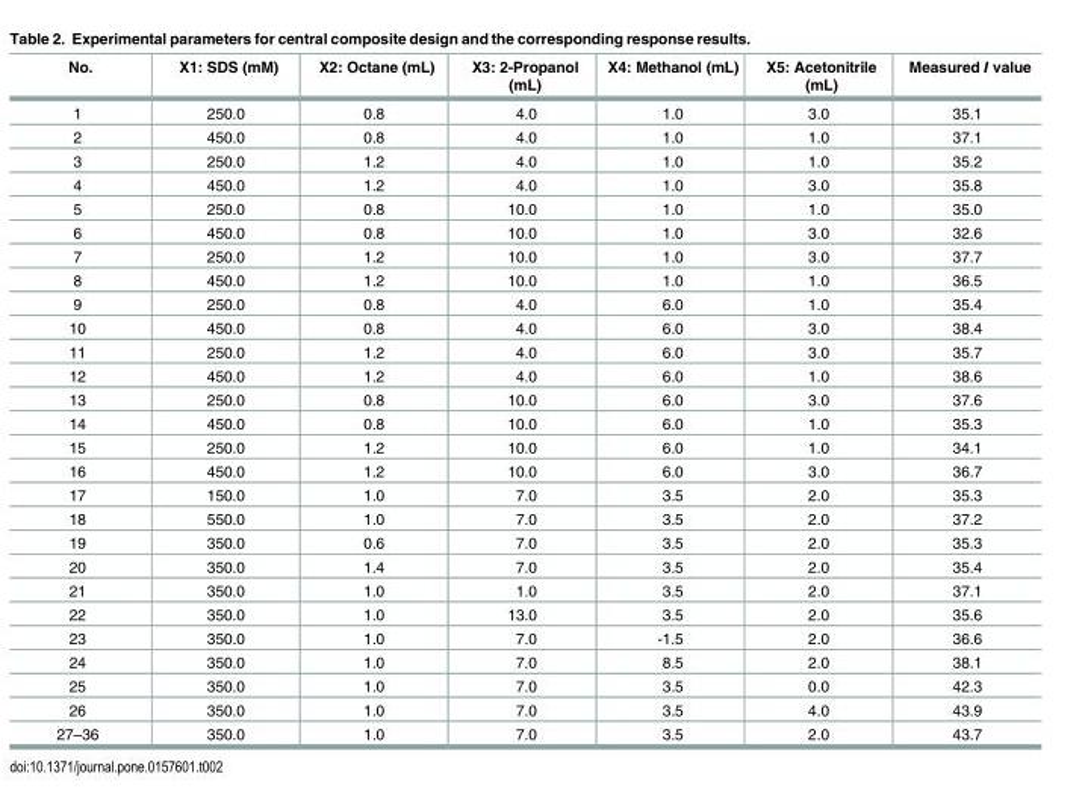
<table><thead><tr><td>No.</td><td>X1: SDS (mM)</td><td>X2: Octane (mL)</td><td>X3: 2-Propanol (mL)</td><td>X4: Methanol (mL)</td><td>X5: Acetonitrile (mL)</td><td>Measured I value</td></tr></thead><tbody><tr><td>1</td><td>250.0</td><td>0.8</td><td>4.0</td><td>1.0</td><td>3.0</td><td>35.1</td></tr><tr><td>2</td><td>450.0</td><td>0.8</td><td>4.0</td><td>1.0</td><td>1.0</td><td>37.1</td></tr><tr><td>3</td><td>250.0</td><td>1.2</td><td>4.0</td><td>1.0</td><td>1.0</td><td>35.2</td></tr><tr><td>4</td><td>450.0</td><td>1.2</td><td>4.0</td><td>1.0</td><td>3.0</td><td>35.8</td></tr><tr><td>5</td><td>250.0</td><td>0.8</td><td>10.0</td><td>1.0</td><td>1.0</td><td>35.0</td></tr><tr><td>6</td><td>450.0</td><td>0.8</td><td>10.0</td><td>1.0</td><td>3.0</td><td>32.6</td></tr><tr><td>7</td><td>250.0</td><td>1.2</td><td>10.0</td><td>1.0</td><td>3.0</td><td>37.7</td></tr><tr><td>8</td><td>450.0</td><td>1.2</td><td>10.0</td><td>1.0</td><td>1.0</td><td>36.5</td></tr><tr><td>9</td><td>250.0</td><td>0.8</td><td>4.0</td><td>6.0</td><td>1.0</td><td>35.4</td></tr><tr><td>10</td><td>450.0</td><td>0.8</td><td>4.0</td><td>6.0</td><td>3.0</td><td>38.4</td></tr><tr><td>11</td><td>250.0</td><td>1.2</td><td>4.0</td><td>6.0</td><td>3.0</td><td>35.7</td></tr><tr><td>12</td><td>450.0</td><td>1.2</td><td>4.0</td><td>6.0</td><td>1.0</td><td>38.6</td></tr><tr><td>13</td><td>250.0</td><td>0.8</td><td>10.0</td><td>6.0</td><td>3.0</td><td>37.6</td></tr><tr><td>14</td><td>450.0</td><td>0.8</td><td>10.0</td><td>6.0</td><td>1.0</td><td>35.3</td></tr><tr><td>15</td><td>250.0</td><td>1.2</td><td>10.0</td><td>6.0</td><td>1.0</td><td>34.1</td></tr><tr><td>16</td><td>450.0</td><td>1.2</td><td>10.0</td><td>6.0</td><td>3.0</td><td>36.7</td></tr><tr><td>17</td><td>150.0</td><td>1.0</td><td>7.0</td><td>3.5</td><td>2.0</td><td>35.3</td></tr><tr><td>18</td><td>550.0</td><td>1.0</td><td>7.0</td><td>3.5</td><td>2.0</td><td>37.2</td></tr><tr><td>19</td><td>350.0</td><td>0.6</td><td>7.0</td><td>3.5</td><td>2.0</td><td>35.3</td></tr><tr><td>20</td><td>350.0</td><td>1.4</td><td>7.0</td><td>3.5</td><td>2.0</td><td>35.4</td></tr><tr><td>21</td><td>350.0</td><td>1.0</td><td>1.0</td><td>3.5</td><td>2.0</td><td>37.1</td></tr><tr><td>22</td><td>350.0</td><td>1.0</td><td>13.0</td><td>3.5</td><td>2.0</td><td>35.6</td></tr><tr><td>23</td><td>350.0</td><td>1.0</td><td>7.0</td><td>-1.5</td><td>2.0</td><td>36.6</td></tr><tr><td>24</td><td>350.0</td><td>1.0</td><td>7.0</td><td>8.5</td><td>2.0</td><td>38.1</td></tr><tr><td>25</td><td>350.0</td><td>1.0</td><td>7.0</td><td>3.5</td><td>0.0</td><td>42.3</td></tr><tr><td>26</td><td>350.0</td><td>1.0</td><td>7.0</td><td>3.5</td><td>4.0</td><td>43.9</td></tr><tr><td>27–36</td><td>350.0</td><td>1.0</td><td>7.0</td><td>3.5</td><td>2.0</td><td>43.7</td></tr></tbody></table>